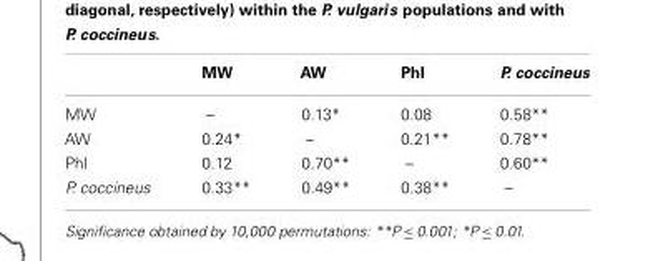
<table><thead><tr><td></td><td>MW</td><td>AW</td><td>PhI</td><td>P. coccineus</td></tr></thead><tbody><tr><td>MW</td><td>–</td><td>0.13*</td><td>0.08</td><td>0.58**</td></tr><tr><td>AW</td><td>0.24*</td><td>–</td><td>0.21**</td><td>0.78**</td></tr><tr><td>PhI</td><td>0.12</td><td>0.70**</td><td>–</td><td>0.60**</td></tr><tr><td>P. coccineus</td><td>0.33**</td><td>0.49**</td><td>0.38**</td><td>–</td></tr></tbody></table>